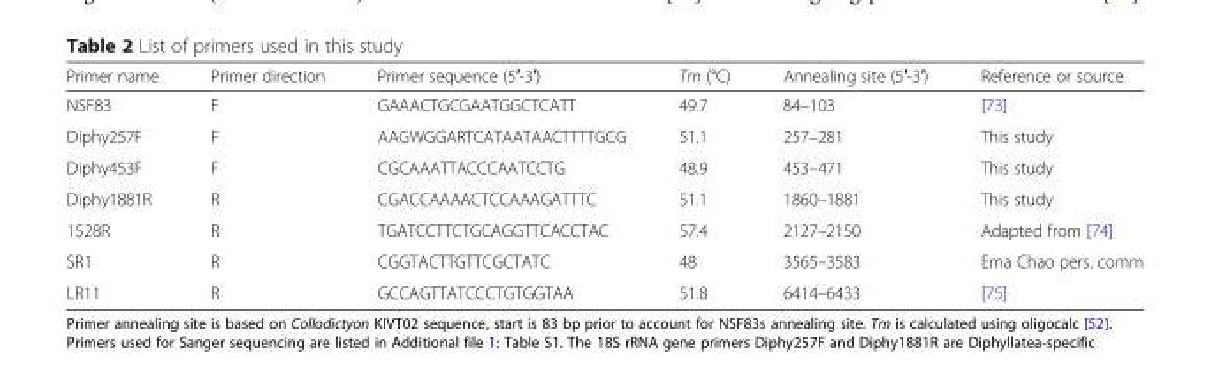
<table><thead><tr><td>Primer name</td><td>Primer direction</td><td>Primer sequence (5′-3′)</td><td>Tm (°C)</td><td>Annealing site (5′-3′)</td><td>Reference or source</td></tr></thead><tbody><tr><td>NSF83</td><td>F</td><td>GAAACTGCGAATGGCTCATT</td><td>49.7</td><td>84–103</td><td>[73]</td></tr><tr><td>Diphy257F</td><td>F</td><td>AAGWGGARTCATAATAACTTTTGCG</td><td>51.1</td><td>257–281</td><td>This study</td></tr><tr><td>Diphy453F</td><td>F</td><td>CGCAAATTACCCAATCCTG</td><td>48.9</td><td>453–471</td><td>This study</td></tr><tr><td>Diphy1881R</td><td>R</td><td>CGACCAAAACTCCAAAGATTTC</td><td>51.1</td><td>1860–1881</td><td>This study</td></tr><tr><td>1528R</td><td>R</td><td>TGATCCTTCTGCAGGTTCACCTAC</td><td>57.4</td><td>2127–2150</td><td>Adapted from [74]</td></tr><tr><td>SR1</td><td>R</td><td>CGGTACTTGTTCGCTATC</td><td>48</td><td>3565–3583</td><td>Ema Chao pers. comm</td></tr><tr><td>LR11</td><td>R</td><td>GCCAGTTATCCCTGTGGTAA</td><td>51.8</td><td>6414–6433</td><td>[75]</td></tr></tbody></table>